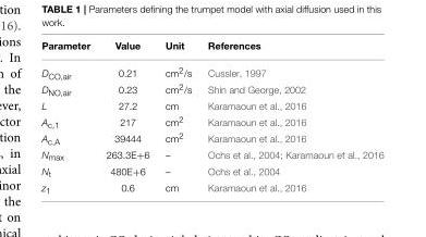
<table><thead><tr><td>Parameter</td><td>Value</td><td>Unit</td><td>References</td></tr></thead><tbody><tr><td>D<sub>CO,air</sub></td><td>0.21</td><td>cm<sup>2</sup>/s</td><td>Cussler, 1997</td></tr><tr><td>D<sub>NO,air</sub></td><td>0.23</td><td>cm<sup>2</sup>/s</td><td>Shin and George, 2002</td></tr><tr><td>L</td><td>27.2</td><td>cm</td><td>Karamaoun et al., 2016</td></tr><tr><td>A<sub>c,1</sub></td><td>217</td><td>cm<sup>2</sup></td><td>Karamaoun et al., 2016</td></tr><tr><td>A<sub>c,A</sub></td><td>39444</td><td>cm<sup>2</sup></td><td>Karamaoun et al., 2016</td></tr><tr><td>N<sub>max</sub></td><td>263.3E+6</td><td>–</td><td>Ochs et al., 2004; Karamaoun et al., 2016</td></tr><tr><td>N<sub>t</sub></td><td>480E+6</td><td>–</td><td>Ochs et al., 2004</td></tr><tr><td>z<sub>1</sub></td><td>0.6</td><td>cm</td><td>Karamaoun et al., 2016</td></tr></tbody></table>